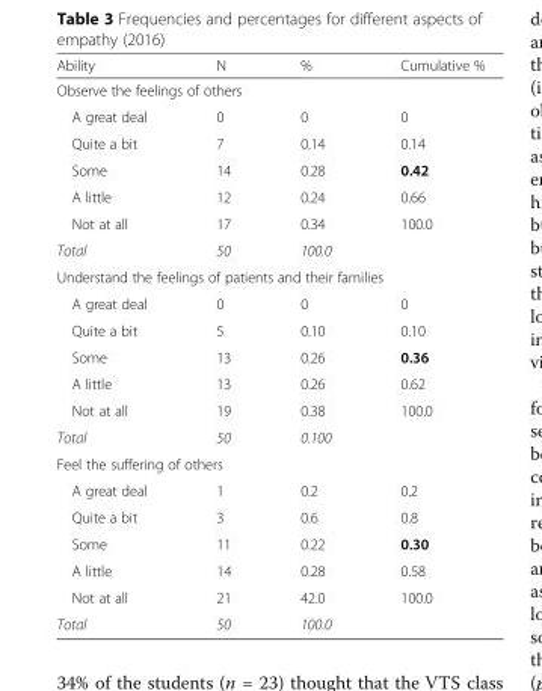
<table><thead><tr><td>Ability</td><td>N</td><td>%</td><td>Cumulative %</td></tr></thead><tbody><tr><td colspan="4">Observe the feelings of others</td></tr><tr><td>A great deal</td><td>0</td><td>0</td><td>0</td></tr><tr><td>Quite a bit</td><td>7</td><td>0.14</td><td>0.14</td></tr><tr><td>Some</td><td>14</td><td>0.28</td><td>0.42</td></tr><tr><td>A little</td><td>12</td><td>0.24</td><td>0.66</td></tr><tr><td>Not at all</td><td>17</td><td>0.34</td><td>100.0</td></tr><tr><td>Total</td><td>50</td><td>100.0</td><td></td></tr><tr><td colspan="4">Understand the feelings of patients and their families</td></tr><tr><td>A great deal</td><td>0</td><td>0</td><td>0</td></tr><tr><td>Quite a bit</td><td>5</td><td>0.10</td><td>0.10</td></tr><tr><td>Some</td><td>13</td><td>0.26</td><td>0.36</td></tr><tr><td>A little</td><td>13</td><td>0.26</td><td>0.62</td></tr><tr><td>Not at all</td><td>19</td><td>0.38</td><td>100.0</td></tr><tr><td>Total</td><td>50</td><td>0.100</td><td></td></tr><tr><td colspan="4">Feel the suffering of others</td></tr><tr><td>A great deal</td><td>1</td><td>0.2</td><td>0.2</td></tr><tr><td>Quite a bit</td><td>3</td><td>0.6</td><td>0.8</td></tr><tr><td>Some</td><td>11</td><td>0.22</td><td>0.30</td></tr><tr><td>A little</td><td>14</td><td>0.28</td><td>0.58</td></tr><tr><td>Not at all</td><td>21</td><td>42.0</td><td>100.0</td></tr><tr><td>Total</td><td>50</td><td>100.0</td><td></td></tr></tbody></table>